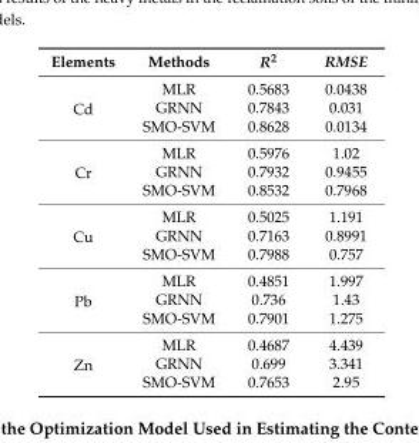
<table><thead><tr><td>Elements</td><td>Methods</td><td>R<sup>2</sup></td><td>RMSE</td></tr></thead><tbody><tr><td rowspan="3">Cd</td><td>MLR</td><td>0.5683</td><td>0.0438</td></tr><tr><td>GRNN</td><td>0.7843</td><td>0.031</td></tr><tr><td>SMO-SVM</td><td>0.8628</td><td>0.0134</td></tr><tr><td rowspan="3">Cr</td><td>MLR</td><td>0.5976</td><td>1.02</td></tr><tr><td>GRNN</td><td>0.7932</td><td>0.9455</td></tr><tr><td>SMO-SVM</td><td>0.8532</td><td>0.7968</td></tr><tr><td rowspan="3">Cu</td><td>MLR</td><td>0.5025</td><td>1.191</td></tr><tr><td>GRNN</td><td>0.7163</td><td>0.8991</td></tr><tr><td>SMO-SVM</td><td>0.7988</td><td>0.757</td></tr><tr><td rowspan="3">Pb</td><td>MLR</td><td>0.4851</td><td>1.997</td></tr><tr><td>GRNN</td><td>0.736</td><td>1.43</td></tr><tr><td>SMO-SVM</td><td>0.7901</td><td>1.275</td></tr><tr><td rowspan="3">Zn</td><td>MLR</td><td>0.4687</td><td>4.439</td></tr><tr><td>GRNN</td><td>0.699</td><td>3.341</td></tr><tr><td>SMO-SVM</td><td>0.7653</td><td>2.95</td></tr></tbody></table>